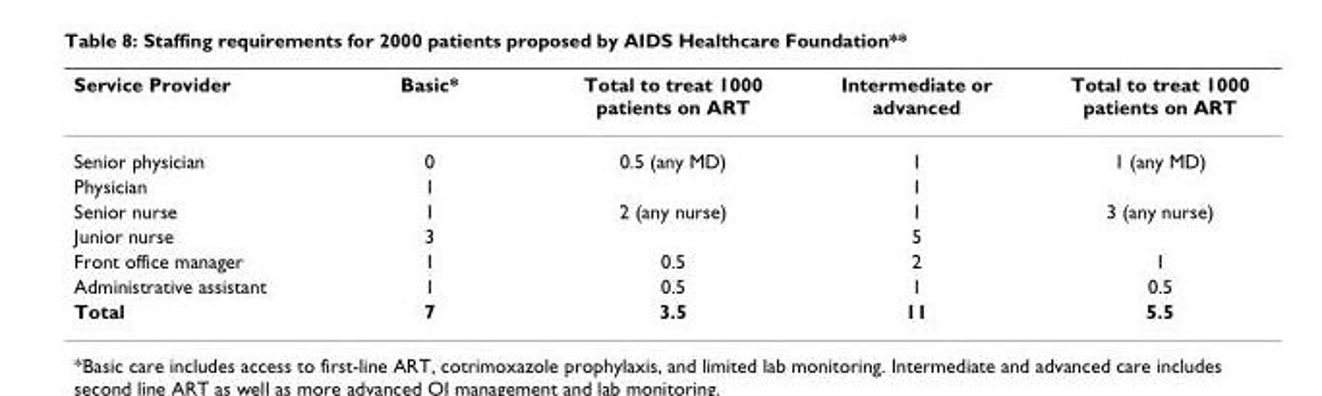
<table><thead><tr><td>Service Provider</td><td>Basic*</td><td>Total to treat 1000 patients on ART</td><td>Intermediate or advanced</td><td>Total to treat 1000 patients on ART</td></tr></thead><tbody><tr><td>Senior physician</td><td>0</td><td>0.5 (any MD)</td><td>1</td><td>1 (any MD)</td></tr><tr><td>Physician</td><td>1</td><td></td><td>1</td><td></td></tr><tr><td>Senior nurse</td><td>1</td><td>2 (any nurse)</td><td>1</td><td>3 (any nurse)</td></tr><tr><td>Junior nurse</td><td>3</td><td></td><td>5</td><td></td></tr><tr><td>Front office manager</td><td>1</td><td>0.5</td><td>2</td><td>1</td></tr><tr><td>Administrative assistant</td><td>1</td><td>0.5</td><td>1</td><td>0.5</td></tr><tr><td>Total</td><td>7</td><td>3.5</td><td>11</td><td>5.5</td></tr></tbody></table>